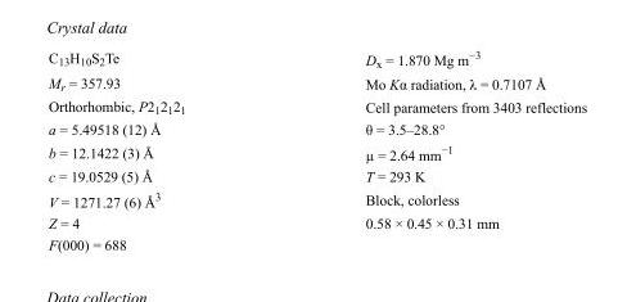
<table><tbody><tr><td>C<sub>13</sub>H<sub>10</sub>S<sub>2</sub>Te</td><td>D<sub>x</sub> = 1.870 Mg m<sup>−3</sup></td></tr><tr><td>M<sub>r</sub> = 357.93</td><td>Mo Kα radiation, λ = 0.7107 Å</td></tr><tr><td>Orthorhombic, P2<sub>1</sub>2<sub>1</sub>2<sub>1</sub></td><td>Cell parameters from 3403 reflections</td></tr><tr><td>a = 5.49518 (12) Å</td><td>θ = 3.5–28.8°</td></tr><tr><td>b = 12.1422 (3) Å</td><td>µ = 2.64 mm<sup>−1</sup></td></tr><tr><td>c = 19.0529 (5) Å</td><td>T = 293 K</td></tr><tr><td>V = 1271.27 (6) Å<sup>3</sup></td><td>Block, colorless</td></tr><tr><td>Z = 4</td><td>0.58 × 0.45 × 0.31 mm</td></tr><tr><td>F(000) = 688</td><td></td></tr></tbody></table>